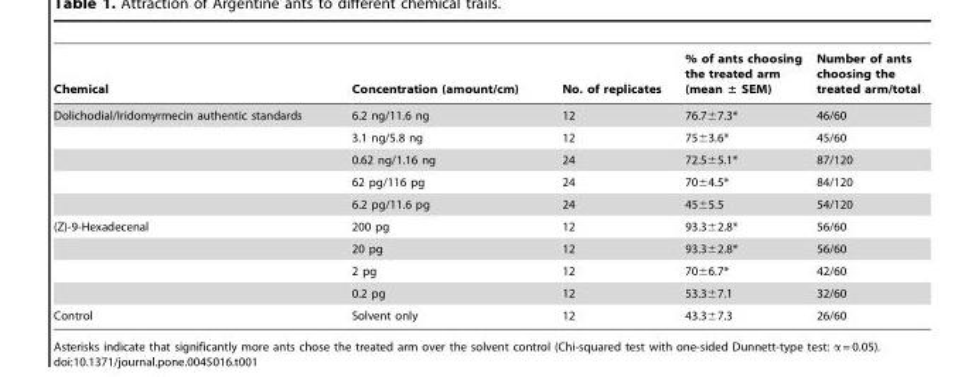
<table><thead><tr><td>Chemical</td><td>Concentration (amount/cm)</td><td>No. of replicates</td><td>% of ants choosing the treated arm (mean ± SEM)</td><td>Number of ants choosing the treated arm/total</td></tr></thead><tbody><tr><td rowspan="5">Dolichodial/Iridomyrmecin authentic standards</td><td>6.2 ng/11.6 ng</td><td>12</td><td>76.7±7.3*</td><td>46/60</td></tr><tr><td>3.1 ng/5.8 ng</td><td>12</td><td>75±3.6*</td><td>45/60</td></tr><tr><td>0.62 ng/1.16 ng</td><td>24</td><td>72.5±5.1*</td><td>87/120</td></tr><tr><td>62 pg/116 pg</td><td>24</td><td>70±4.5*</td><td>84/120</td></tr><tr><td>6.2 pg/11.6 pg</td><td>24</td><td>45±5.5</td><td>54/120</td></tr><tr><td rowspan="4">(Z)-9-Hexadecenal</td><td>200 pg</td><td>12</td><td>93.3±2.8*</td><td>56/60</td></tr><tr><td>20 pg</td><td>12</td><td>93.3±2.8*</td><td>56/60</td></tr><tr><td>2 pg</td><td>12</td><td>70±6.7*</td><td>42/60</td></tr><tr><td>0.2 pg</td><td>12</td><td>53.3±7.1</td><td>32/60</td></tr><tr><td>Control</td><td>Solvent only</td><td>12</td><td>43.3±7.3</td><td>26/60</td></tr></tbody></table>